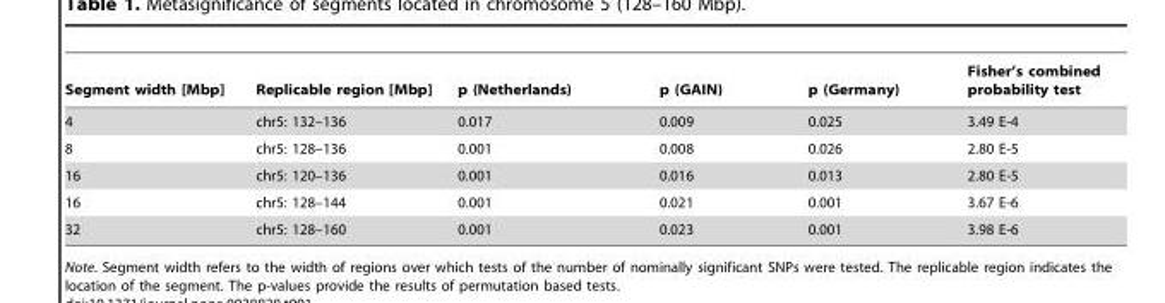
<table><thead><tr><td>Segment width [Mbp]</td><td>Replicable region [Mbp]</td><td>p (Netherlands)</td><td>p (GAIN)</td><td>p (Germany)</td><td>Fisher’s combined probability test</td></tr></thead><tbody><tr><td>4</td><td>chr5: 132–136</td><td>0.017</td><td>0.009</td><td>0.025</td><td>3.49 E-4</td></tr><tr><td>8</td><td>chr5: 128–136</td><td>0.001</td><td>0.008</td><td>0.026</td><td>2.80 E-5</td></tr><tr><td>16</td><td>chr5: 120–136</td><td>0.001</td><td>0.016</td><td>0.013</td><td>2.80 E-5</td></tr><tr><td>16</td><td>chr5: 128–144</td><td>0.001</td><td>0.021</td><td>0.001</td><td>3.67 E-6</td></tr><tr><td>32</td><td>chr5: 128–160</td><td>0.001</td><td>0.023</td><td>0.001</td><td>3.98 E-6</td></tr></tbody></table>